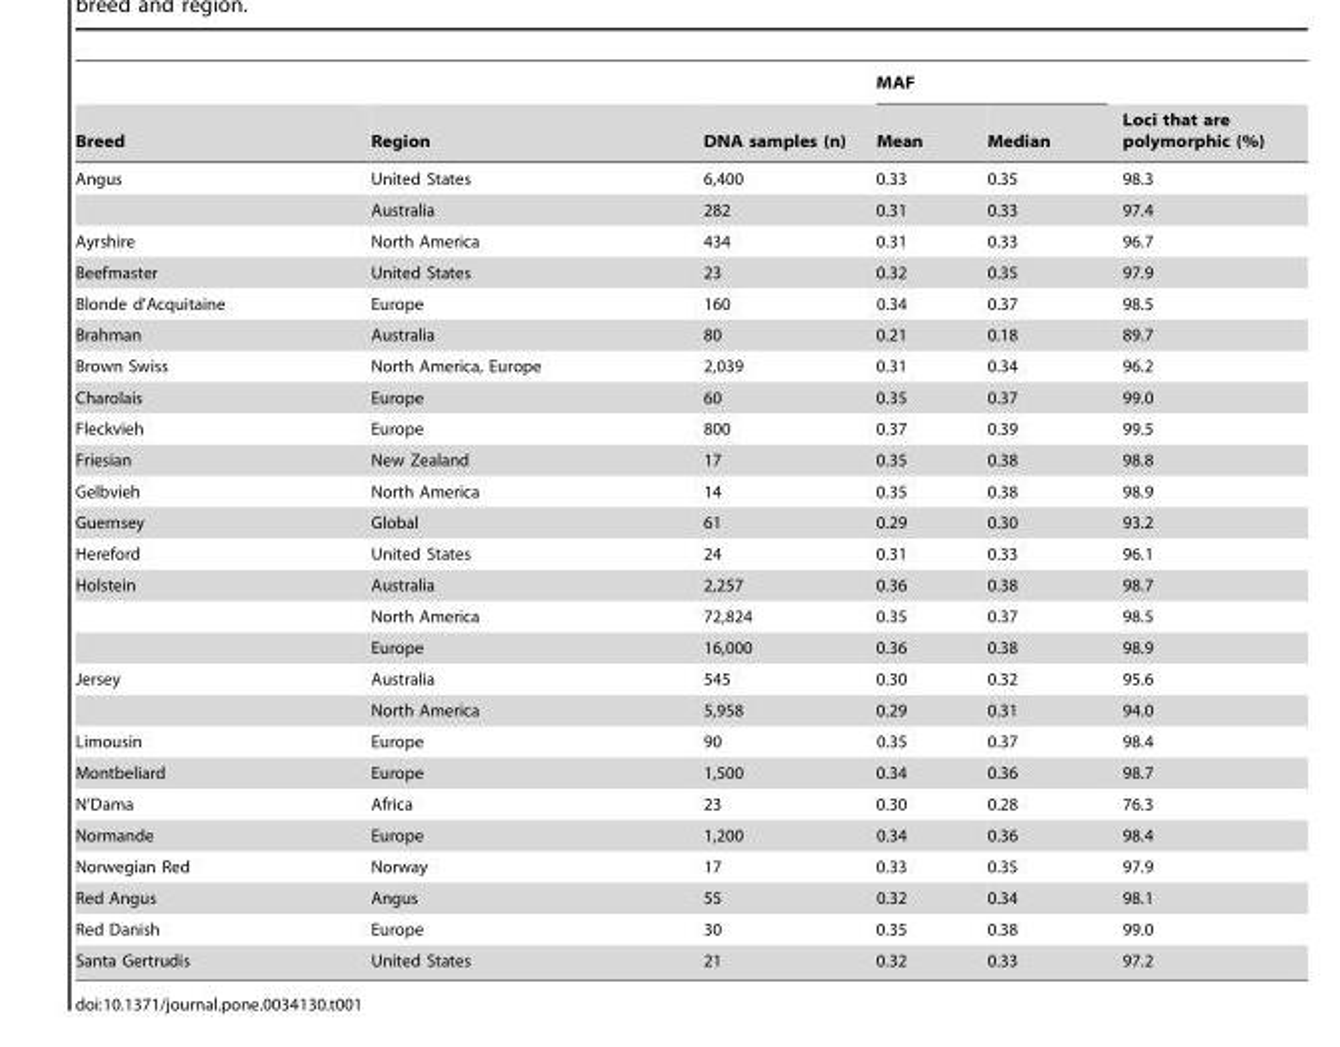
<table><thead><tr><td rowspan="2">Breed</td><td rowspan="2">Region</td><td rowspan="2">DNA samples (n)</td><td colspan="2">MAF</td><td rowspan="2">Loci that are polymorphic (%)</td></tr><tr><td>Mean</td><td>Median</td></tr></thead><tbody><tr><td rowspan="2">Angus</td><td>United States</td><td>6,400</td><td>0.33</td><td>0.35</td><td>98.3</td></tr><tr><td>Australia</td><td>282</td><td>0.31</td><td>0.33</td><td>97.4</td></tr><tr><td>Ayrshire</td><td>North America</td><td>434</td><td>0.31</td><td>0.33</td><td>96.7</td></tr><tr><td>Beefmaster</td><td>United States</td><td>23</td><td>0.32</td><td>0.35</td><td>97.9</td></tr><tr><td>Blonde d’Acquitaine</td><td>Europe</td><td>160</td><td>0.34</td><td>0.37</td><td>98.5</td></tr><tr><td>Brahman</td><td>Australia</td><td>80</td><td>0.21</td><td>0.18</td><td>89.7</td></tr><tr><td>Brown Swiss</td><td>North America, Europe</td><td>2,039</td><td>0.31</td><td>0.34</td><td>96.2</td></tr><tr><td>Charolais</td><td>Europe</td><td>60</td><td>0.35</td><td>0.37</td><td>99.0</td></tr><tr><td>Fleckvieh</td><td>Europe</td><td>800</td><td>0.37</td><td>0.39</td><td>99.5</td></tr><tr><td>Friesian</td><td>New Zealand</td><td>17</td><td>0.35</td><td>0.38</td><td>98.8</td></tr><tr><td>Gelbvieh</td><td>North America</td><td>14</td><td>0.35</td><td>0.38</td><td>98.9</td></tr><tr><td>Guernsey</td><td>Global</td><td>61</td><td>0.29</td><td>0.30</td><td>93.2</td></tr><tr><td>Hereford</td><td>United States</td><td>24</td><td>0.31</td><td>0.33</td><td>96.1</td></tr><tr><td rowspan="3">Holstein</td><td>Australia</td><td>2,257</td><td>0.36</td><td>0.38</td><td>98.7</td></tr><tr><td>North America</td><td>72,824</td><td>0.35</td><td>0.37</td><td>98.5</td></tr><tr><td>Europe</td><td>16,000</td><td>0.36</td><td>0.38</td><td>98.9</td></tr><tr><td rowspan="2">Jersey</td><td>Australia</td><td>545</td><td>0.30</td><td>0.32</td><td>95.6</td></tr><tr><td>North America</td><td>5,958</td><td>0.29</td><td>0.31</td><td>94.0</td></tr><tr><td>Limousin</td><td>Europe</td><td>90</td><td>0.35</td><td>0.37</td><td>98.4</td></tr><tr><td>Montbeliard</td><td>Europe</td><td>1,500</td><td>0.34</td><td>0.36</td><td>98.7</td></tr><tr><td>N’Dama</td><td>Africa</td><td>23</td><td>0.30</td><td>0.28</td><td>76.3</td></tr><tr><td>Normande</td><td>Europe</td><td>1,200</td><td>0.34</td><td>0.36</td><td>98.4</td></tr><tr><td>Norwegian Red</td><td>Norway</td><td>17</td><td>0.33</td><td>0.35</td><td>97.9</td></tr><tr><td>Red Angus</td><td>Angus</td><td>55</td><td>0.32</td><td>0.34</td><td>98.1</td></tr><tr><td>Red Danish</td><td>Europe</td><td>30</td><td>0.35</td><td>0.38</td><td>99.0</td></tr><tr><td>Santa Gertrudis</td><td>United States</td><td>21</td><td>0.32</td><td>0.33</td><td>97.2</td></tr></tbody></table>